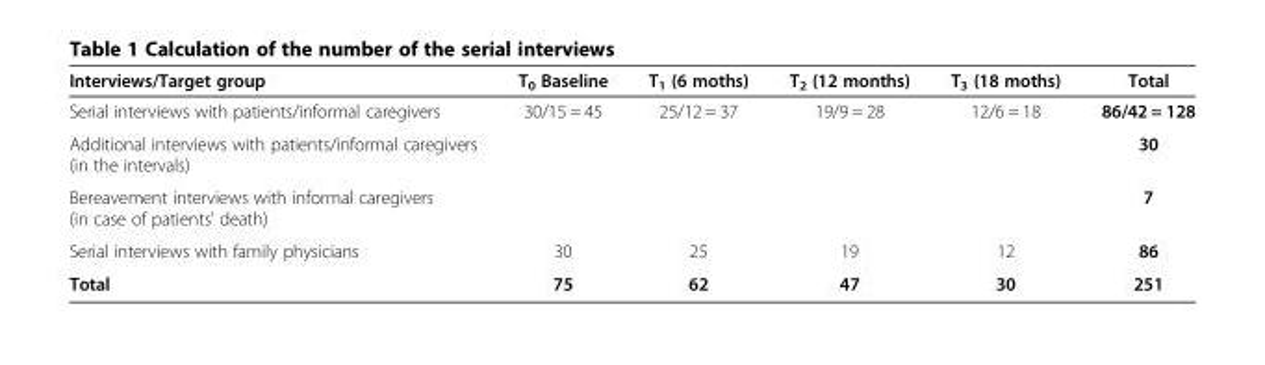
<table><thead><tr><td>Interviews/Target group</td><td>T<sub>0</sub> Baseline</td><td>T<sub>1</sub> (6 moths)</td><td>T<sub>2</sub> (12 months)</td><td>T<sub>3</sub> (18 moths)</td><td>Total</td></tr></thead><tbody><tr><td>Serial interviews with patients/informal caregivers</td><td>30/15 = 45</td><td>25/12 = 37</td><td>19/9 = 28</td><td>12/6 = 18</td><td>86/42 = 128</td></tr><tr><td>Additional interviews with patients/informal caregivers (in the intervals)</td><td></td><td></td><td></td><td></td><td>30</td></tr><tr><td>Bereavement interviews with informal caregivers (in case of patients&#x27; death)</td><td></td><td></td><td></td><td></td><td>7</td></tr><tr><td>Serial interviews with family physicians</td><td>30</td><td>25</td><td>19</td><td>12</td><td>86</td></tr><tr><td>Total</td><td>75</td><td>62</td><td>47</td><td>30</td><td>251</td></tr></tbody></table>